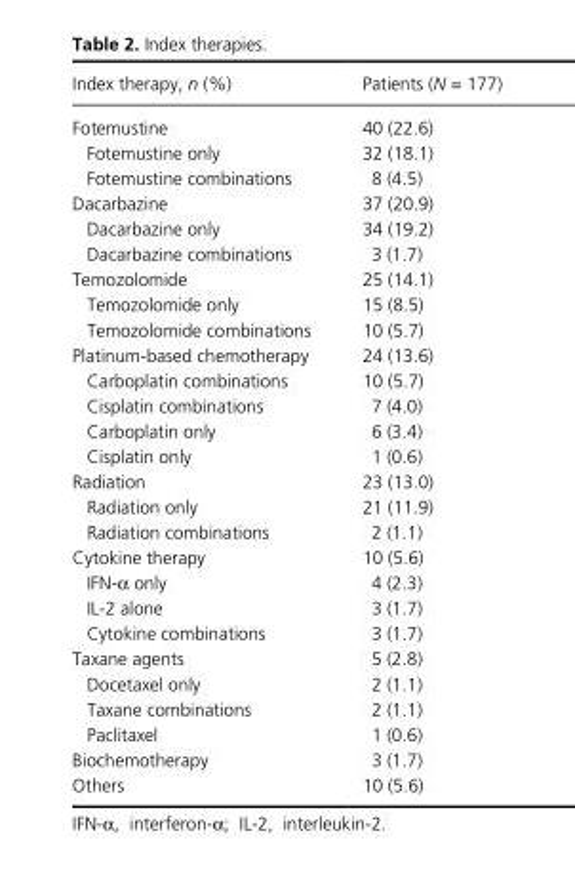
<table><thead><tr><td>Index therapy, n (%)</td><td>Patients (N = 177)</td></tr></thead><tbody><tr><td>Fotemustine</td><td>40 (22.6)</td></tr><tr><td>Fotemustine only</td><td>32 (18.1)</td></tr><tr><td>Fotemustine combinations</td><td>8 (4.5)</td></tr><tr><td>Dacarbazine</td><td>37 (20.9)</td></tr><tr><td>Dacarbazine only</td><td>34 (19.2)</td></tr><tr><td>Dacarbazine combinations</td><td>3 (1.7)</td></tr><tr><td>Temozolomide</td><td>25 (14.1)</td></tr><tr><td>Temozolomide only</td><td>15 (8.5)</td></tr><tr><td>Temozolomide combinations</td><td>10 (5.7)</td></tr><tr><td>Platinum- based chemotherapy</td><td>24 (13.6)</td></tr><tr><td>Carboplatin combinations</td><td>10 (5.7)</td></tr><tr><td>Cisplatin combinations</td><td>7 (4.0)</td></tr><tr><td>Carboplatin only</td><td>6 (3.4)</td></tr><tr><td>Cisplatin only</td><td>1 (0.6)</td></tr><tr><td>Radiation</td><td>23 (13.0)</td></tr><tr><td>Radiation only</td><td>21 (11.9)</td></tr><tr><td>Radiation combinations</td><td>2 (1.1)</td></tr><tr><td>Cytokine therapy</td><td>10 (5.6)</td></tr><tr><td>IFN- α only</td><td>4 (2.3)</td></tr><tr><td>IL- 2 alone</td><td>3 (1.7)</td></tr><tr><td>Cytokine combinations</td><td>3 (1.7)</td></tr><tr><td>Taxane agents</td><td>5 (2.8)</td></tr><tr><td>Docetaxel only</td><td>2 (1.1)</td></tr><tr><td>Taxane combinations</td><td>2 (1.1)</td></tr><tr><td>Paclitaxel</td><td>1 (0.6)</td></tr><tr><td>Biochemotherapy</td><td>3 (1.7)</td></tr><tr><td>Others</td><td>10 (5.6)</td></tr></tbody></table>